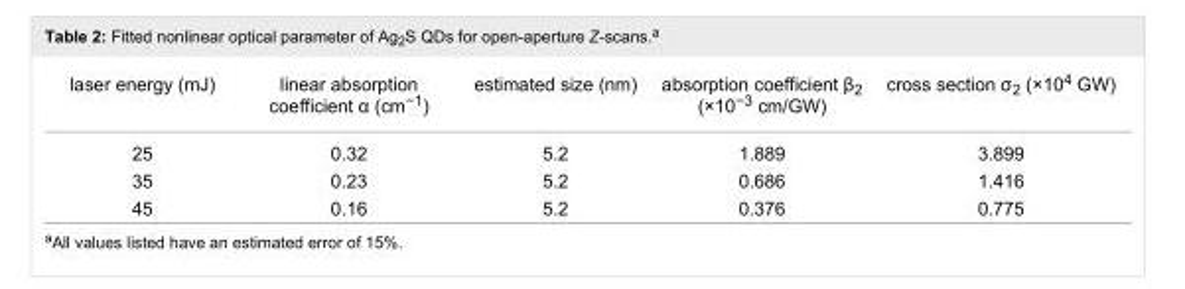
<table><tbody><tr><td>laser energy (mJ)</td><td>linear absorption coefficient α (cm<sup>−1</sup>)</td><td>estimated size (nm)</td><td>absorption coefficient β<sub>2</sub> (×10<sup>−3</sup> cm/GW)</td><td>cross section σ<sub>2</sub> (×10<sup>4</sup> GW)</td></tr><tr><td>25</td><td>0.32</td><td>5.2</td><td>1.889</td><td>3.899</td></tr><tr><td>35</td><td>0.23</td><td>5.2</td><td>0.686</td><td>1.416</td></tr><tr><td>45</td><td>0.16</td><td>5.2</td><td>0.376</td><td>0.775</td></tr></tbody></table>